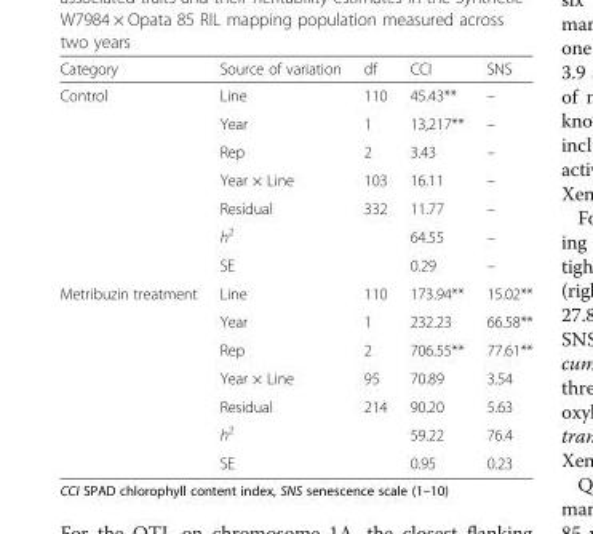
<table><thead><tr><td>Category</td><td>Source of variation</td><td>df</td><td>CCI</td><td>SNS</td></tr></thead><tbody><tr><td rowspan="7">Control</td><td>Line</td><td>110</td><td>45.43**</td><td>–</td></tr><tr><td>Year</td><td>1</td><td>13,217**</td><td>–</td></tr><tr><td>Rep</td><td>2</td><td>3.43</td><td>–</td></tr><tr><td>Year × Line</td><td>103</td><td>16.11</td><td>–</td></tr><tr><td>Residual</td><td>332</td><td>11.77</td><td>–</td></tr><tr><td>h<sup>2</sup></td><td></td><td>64.55</td><td>–</td></tr><tr><td>SE</td><td></td><td>0.29</td><td>–</td></tr><tr><td rowspan="7">Metribuzin treatment</td><td>Line</td><td>110</td><td>173.94**</td><td>15.02**</td></tr><tr><td>Year</td><td>1</td><td>232.23</td><td>66.58**</td></tr><tr><td>Rep</td><td>2</td><td>706.55**</td><td>77.61**</td></tr><tr><td>Year × Line</td><td>95</td><td>70.89</td><td>3.54</td></tr><tr><td>Residual</td><td>214</td><td>90.20</td><td>5.63</td></tr><tr><td>h<sup>2</sup></td><td></td><td>59.22</td><td>76.4</td></tr><tr><td>SE</td><td></td><td>0.95</td><td>0.23</td></tr></tbody></table>